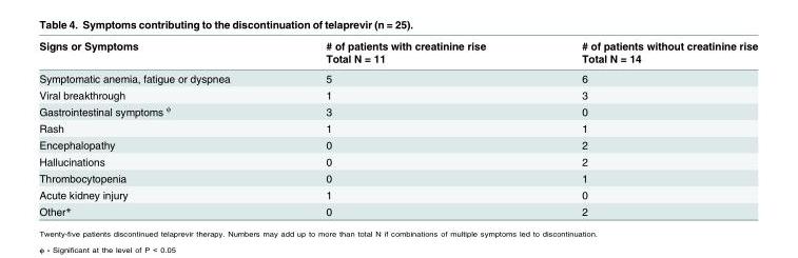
<table><thead><tr><td rowspan="2">Signs or Symptoms</td><td rowspan="2"># of patients with creatinine rise Total N = 11</td><td rowspan="2"># of patients without creatinine rise Total N = 14</td></tr><tr></tr></thead><tbody><tr><td>Symptomatic anemia, fatigue or dyspnea</td><td>5</td><td>6</td></tr><tr><td>Viral breakthrough</td><td>1</td><td>3</td></tr><tr><td>Gastrointestinal symptoms <sup>ϕ</sup></td><td>3</td><td>0</td></tr><tr><td>Rash</td><td>1</td><td>1</td></tr><tr><td>Encephalopathy</td><td>0</td><td>2</td></tr><tr><td>Hallucinations</td><td>0</td><td>2</td></tr><tr><td>Thrombocytopenia</td><td>0</td><td>1</td></tr><tr><td>Acute kidney injury</td><td>1</td><td>0</td></tr><tr><td>Other*</td><td>0</td><td>2</td></tr></tbody></table>